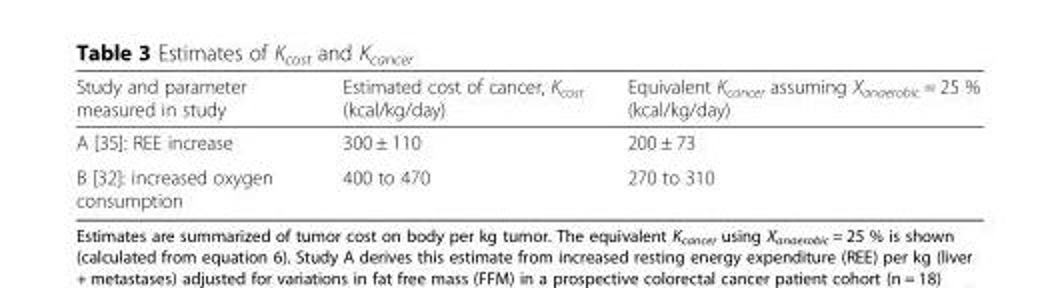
<table><thead><tr><td>Study and parameter measured in study</td><td>Estimated cost of cancer, K<sub>cost</sub> (kcal/kg/day)</td><td>Equivalent K<sub>cancer</sub> assuming X<sub>anaerobic</sub> = 25 % (kcal/kg/day)</td></tr></thead><tbody><tr><td>A [35]: REE increase</td><td>300 ± 110</td><td>200 ± 73</td></tr><tr><td>B [32]: increased oxygen consumption</td><td>400 to 470</td><td>270 to 310</td></tr></tbody></table>